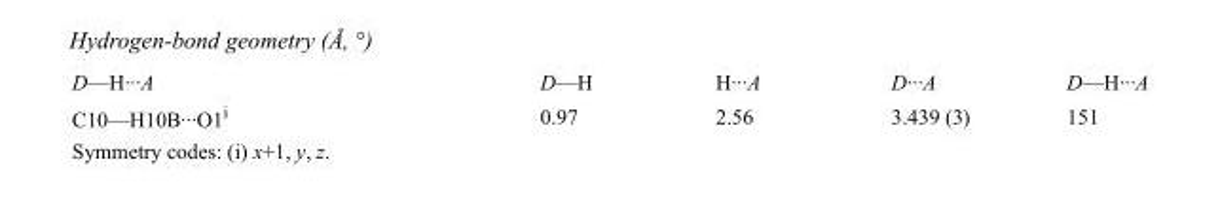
<table><tbody><tr><td>D—H···A</td><td>D—H</td><td>H···A</td><td>D···A</td><td>D—H···A</td></tr><tr><td>C10—H10B···O1<sup>i</sup></td><td>0.97</td><td>2.56</td><td>3.439 (3)</td><td>151</td></tr></tbody></table>